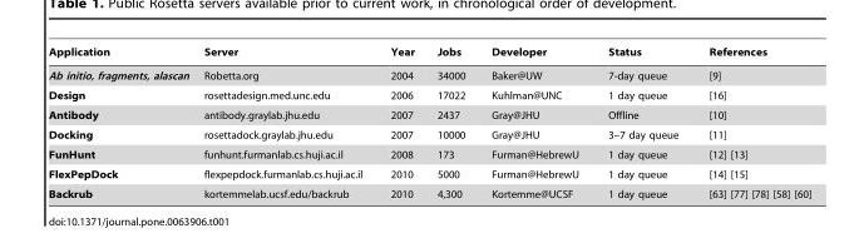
<table><thead><tr><td>Application</td><td>Server</td><td>Year</td><td>Jobs</td><td>Developer</td><td>Status</td><td>References</td></tr></thead><tbody><tr><td>Ab initio, fragments, alascan</td><td>Robetta.org</td><td>2004</td><td>34000</td><td>Baker@UW</td><td>7-day queue</td><td>[9]</td></tr><tr><td>Design</td><td>rosettadesign.med.unc.edu</td><td>2006</td><td>17022</td><td>Kuhlman@UNC</td><td>1 day queue</td><td>[16]</td></tr><tr><td>Antibody</td><td>antibody.graylab.jhu.edu</td><td>2007</td><td>2437</td><td>Gray@JHU</td><td>Offline</td><td>[10]</td></tr><tr><td>Docking</td><td>rosettadock.graylab.jhu.edu</td><td>2007</td><td>10000</td><td>Gray@JHU</td><td>3–7 day queue</td><td>[11]</td></tr><tr><td>FunHunt</td><td>funhunt.furmanlab.cs.huji.ac.il</td><td>2008</td><td>173</td><td>Furman@HebrewU</td><td>1 day queue</td><td>[12] [13]</td></tr><tr><td>FlexPepDock</td><td>flexpepdock.furmanlab.cs.huji.ac.il</td><td>2010</td><td>5000</td><td>Furman@HebrewU</td><td>1 day queue</td><td>[14] [15]</td></tr><tr><td>Backrub</td><td>kortemmelab.ucsf.edu/backrub</td><td>2010</td><td>4,300</td><td>Kortemme@UCSF</td><td>1 day queue</td><td>[63] [77] [78] [58] [60]</td></tr></tbody></table>